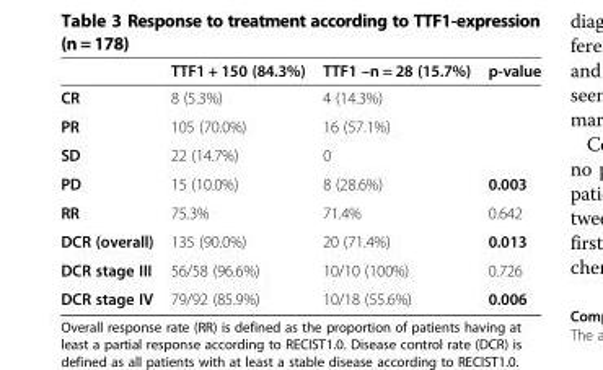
<table><thead><tr><td></td><td>TTF1 + 150 (84.3%)</td><td>TTF1 –n = 28 (15.7%)</td><td>p-value</td></tr></thead><tbody><tr><td>CR</td><td>8 (5.3%)</td><td>4 (14.3%)</td><td></td></tr><tr><td>PR</td><td>105 (70.0%)</td><td>16 (57.1%)</td><td></td></tr><tr><td>SD</td><td>22 (14.7%)</td><td>0</td><td></td></tr><tr><td>PD</td><td>15 (10.0%)</td><td>8 (28.6%)</td><td>0.003</td></tr><tr><td>RR</td><td>75.3%</td><td>71.4%</td><td>0.642</td></tr><tr><td>DCR (overall)</td><td>135 (90.0%)</td><td>20 (71.4%)</td><td>0.013</td></tr><tr><td>DCR stage III</td><td>56/58 (96.6%)</td><td>10/10 (100%)</td><td>0.726</td></tr><tr><td>DCR stage IV</td><td>79/92 (85.9%)</td><td>10/18 (55.6%)</td><td>0.006</td></tr></tbody></table>